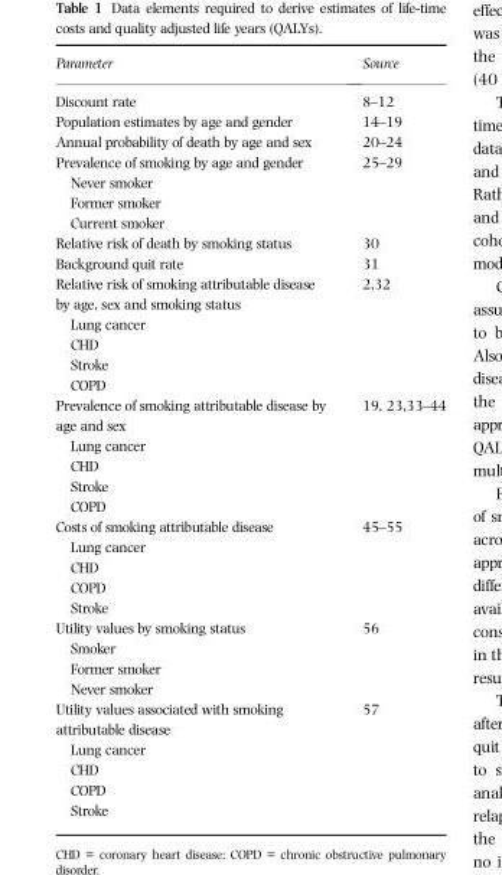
<table><thead><tr><td>Parameter</td><td>Source</td></tr></thead><tbody><tr><td>Discount rate</td><td>8–12</td></tr><tr><td>Population estimates by age and gender</td><td>14–19</td></tr><tr><td>Annual probability of death by age and sex</td><td>20–24</td></tr><tr><td>Prevalence of smoking by age and gender</td><td rowspan="4">25–29</td></tr><tr><td>Never smoker</td></tr><tr><td>Former smoker</td></tr><tr><td>Current smoker</td></tr><tr><td>Relative risk of death by smoking status</td><td>30</td></tr><tr><td>Background quit rate</td><td>31</td></tr><tr><td>Relative risk of smoking attributable disease by age, sex and smoking status</td><td rowspan="5">2,32</td></tr><tr><td>Lung cancer</td></tr><tr><td>CHD</td></tr><tr><td>Stroke</td></tr><tr><td>COPD</td></tr><tr><td>Prevalence of smoking attributable disease by age and sex</td><td rowspan="5">19, 23,33–44</td></tr><tr><td>Lung cancer</td></tr><tr><td>CHD</td></tr><tr><td>Stroke</td></tr><tr><td>COPD</td></tr><tr><td>Costs of smoking attributable disease</td><td rowspan="5">45–55</td></tr><tr><td>Lung cancer</td></tr><tr><td>CHD</td></tr><tr><td>COPD</td></tr><tr><td>Stroke</td></tr><tr><td>Utility values by smoking status</td><td rowspan="4">56</td></tr><tr><td>Smoker</td></tr><tr><td>Former smoker</td></tr><tr><td>Never smoker</td></tr><tr><td>Utility values associated with smoking attributable disease</td><td rowspan="5">57</td></tr><tr><td>Lung cancer</td></tr><tr><td>CHD</td></tr><tr><td>COPD</td></tr><tr><td>Stroke</td></tr></tbody></table>